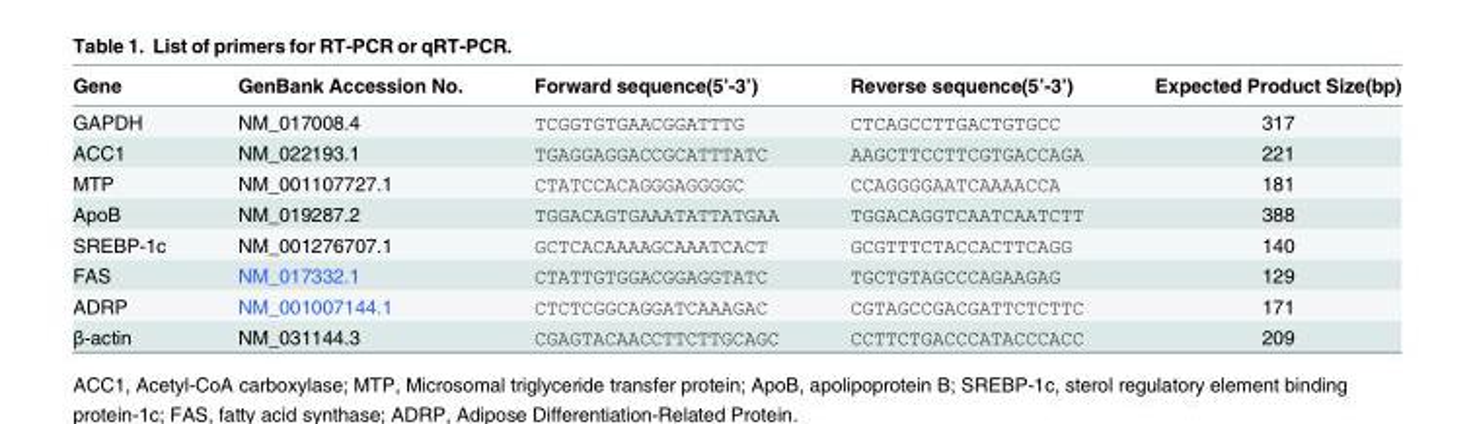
<table><thead><tr><td>Gene</td><td>GenBank Accession No.</td><td>Forward sequence(5’-3’)</td><td>Reverse sequence(5’-3’)</td><td>Expected Product Size(bp)</td></tr></thead><tbody><tr><td>GAPDH</td><td>NM_017008.4</td><td>TCGGTGTGAACGGATTTG</td><td>CTCAGCCTTGACTGTGCC</td><td>317</td></tr><tr><td>ACC1</td><td>NM_022193.1</td><td>TGAGGAGGACCGCATTTATC</td><td>AAGCTTCCTTCGTGACCAGA</td><td>221</td></tr><tr><td>MTP</td><td>NM_001107727.1</td><td>CTATCCACAGGGAGGGGC</td><td>CCAGGGGAATCAAAACCA</td><td>181</td></tr><tr><td>ApoB</td><td>NM_019287.2</td><td>TGGACAGTGAAATATTATGAA</td><td>TGGACAGGTCAATCAATCTT</td><td>388</td></tr><tr><td>SREBP-1c</td><td>NM_001276707.1</td><td>GCTCACAAAAGCAAATCACT</td><td>GCGTTTCTACCACTTCAGG</td><td>140</td></tr><tr><td>FAS</td><td>NM_017332.1</td><td>CTATTGTGGACGGAGGTATC</td><td>TGCTGTAGCCCAGAAGAG</td><td>129</td></tr><tr><td>ADRP</td><td>NM_001007144.1</td><td>CTCTCGGCAGGATCAAAGAC</td><td>CGTAGCCGACGATTCTCTTC</td><td>171</td></tr><tr><td>β-actin</td><td>NM_031144.3</td><td>CGAGTACAACCTTCTTGCAGC</td><td>CCTTCTGACCCATACCCACC</td><td>209</td></tr></tbody></table>